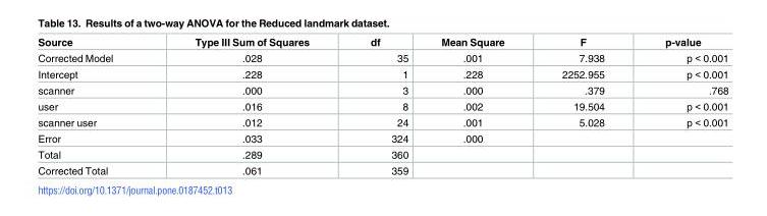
<table><thead><tr><td>Source</td><td>Type III Sum of Squares</td><td>df</td><td>Mean Square</td><td>F</td><td>p-value</td></tr></thead><tbody><tr><td>Corrected Model</td><td>.028</td><td>35</td><td>.001</td><td>7.938</td><td>p &lt; 0.001</td></tr><tr><td>Intercept</td><td>.228</td><td>1</td><td>.228</td><td>2252.955</td><td>p &lt; 0.001</td></tr><tr><td>scanner</td><td>.000</td><td>3</td><td>.000</td><td>.379</td><td>.768</td></tr><tr><td>user</td><td>.016</td><td>8</td><td>.002</td><td>19.504</td><td>p &lt; 0.001</td></tr><tr><td>scanner user</td><td>.012</td><td>24</td><td>.001</td><td>5.028</td><td>p &lt; 0.001</td></tr><tr><td>Error</td><td>.033</td><td>324</td><td>.000</td><td></td><td></td></tr><tr><td>Total</td><td>.289</td><td>360</td><td></td><td></td><td></td></tr><tr><td>Corrected Total</td><td>.061</td><td>359</td><td></td><td></td><td></td></tr></tbody></table>